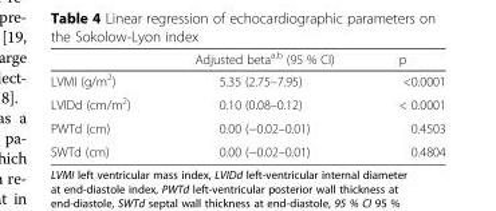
<table><thead><tr><td></td><td>Adjusted beta<sup>a,b</sup> (95 % CI)</td><td>p</td></tr></thead><tbody><tr><td>LVMI (g/m<sup>2</sup>)</td><td>5.35 (2.75–7.95)</td><td>&lt;0.0001</td></tr><tr><td>LVIDd (cm/m<sup>2</sup>)</td><td>0.10 (0.08–0.12)</td><td>&lt; 0.0001</td></tr><tr><td>PWTd (cm)</td><td>0.00 (−0.02–0.01)</td><td>0.4503</td></tr><tr><td>SWTd (cm)</td><td>0.00 (−0.02–0.01)</td><td>0.4804</td></tr></tbody></table>